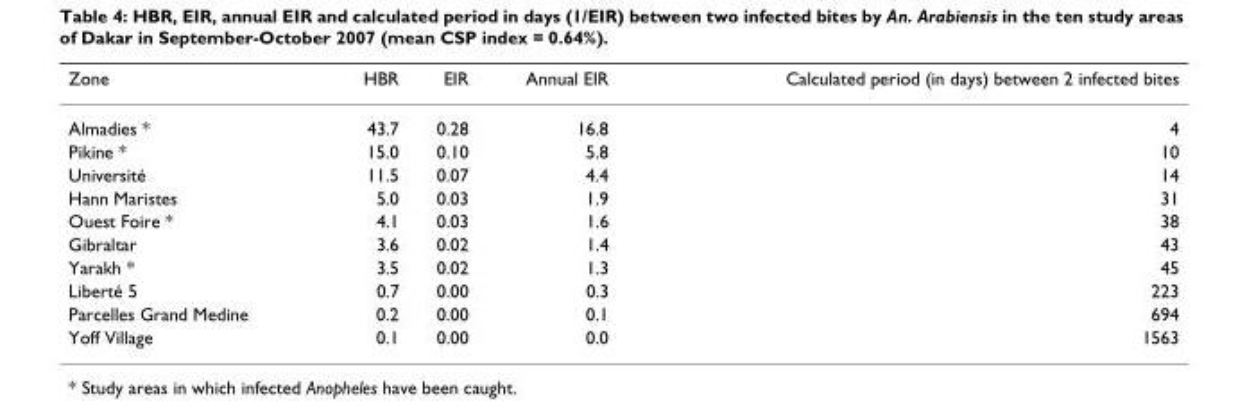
<table><thead><tr><td>Zone</td><td>HBR</td><td>EIR</td><td>Annual EIR</td><td>Calculated period (in days) between 2 infected bites</td></tr></thead><tbody><tr><td>Almadies *</td><td>43.7</td><td>0.28</td><td>16.8</td><td>4</td></tr><tr><td>Pikine *</td><td>15.0</td><td>0.10</td><td>5.8</td><td>10</td></tr><tr><td>Université</td><td>11.5</td><td>0.07</td><td>4.4</td><td>14</td></tr><tr><td>Hann Maristes</td><td>5.0</td><td>0.03</td><td>1.9</td><td>31</td></tr><tr><td>Ouest Foire *</td><td>4.1</td><td>0.03</td><td>1.6</td><td>38</td></tr><tr><td>Gibraltar</td><td>3.6</td><td>0.02</td><td>1.4</td><td>43</td></tr><tr><td>Yarakh *</td><td>3.5</td><td>0.02</td><td>1.3</td><td>45</td></tr><tr><td>Liberté 5</td><td>0.7</td><td>0.00</td><td>0.3</td><td>223</td></tr><tr><td>Parcelles Grand Medine</td><td>0.2</td><td>0.00</td><td>0.1</td><td>694</td></tr><tr><td>Yoff Village</td><td>0.1</td><td>0.00</td><td>0.0</td><td>1563</td></tr></tbody></table>